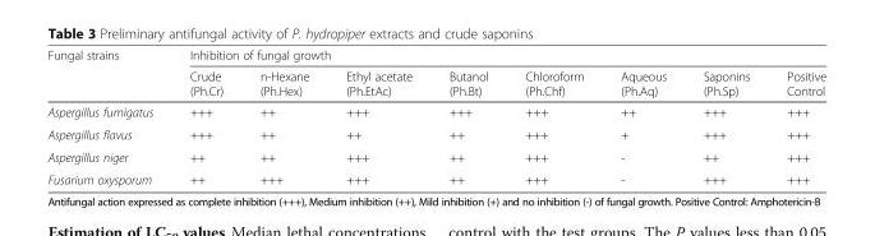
<table><thead><tr><td rowspan="2">Fungal strains</td><td colspan="8">Inhibition of fungal growth</td></tr><tr><td>Crude (Ph.Cr)</td><td>n-Hexane (Ph.Hex)</td><td>Ethyl acetate (Ph.EtAc)</td><td>Butanol (Ph.Bt)</td><td>Chloroform (Ph.Chf)</td><td>Aqueous (Ph.Aq)</td><td>Saponins (Ph.Sp)</td><td>Positive Control</td></tr></thead><tbody><tr><td>Aspergillus fumigatus</td><td>+++</td><td>++</td><td>+++</td><td>+++</td><td>+++</td><td>++</td><td>+++</td><td>+++</td></tr><tr><td>Aspergillus flavus</td><td>+++</td><td>++</td><td>++</td><td>++</td><td>+++</td><td>+</td><td>+++</td><td>+++</td></tr><tr><td>Aspergillus niger</td><td>++</td><td>++</td><td>+++</td><td>++</td><td>+++</td><td>-</td><td>++</td><td>+++</td></tr><tr><td>Fusarium oxysporum</td><td>++</td><td>+++</td><td>+++</td><td>++</td><td>+++</td><td>-</td><td>+++</td><td>+++</td></tr></tbody></table>